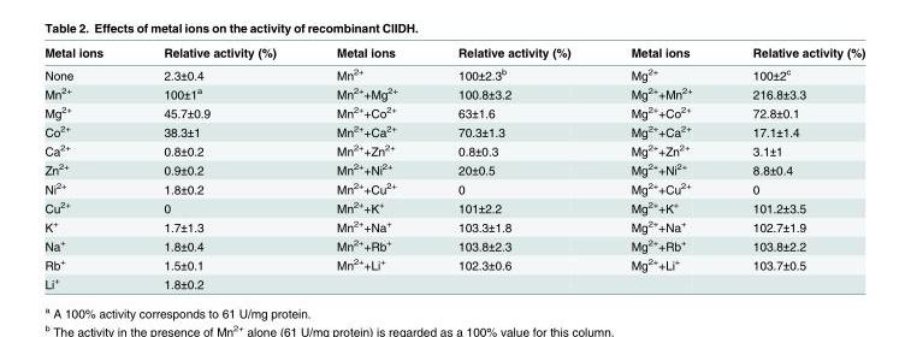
<table><thead><tr><td>Metal ions</td><td>Relative activity (%)</td><td>Metal ions</td><td>Relative activity (%)</td><td>Metal ions</td><td>Relative activity (%)</td></tr></thead><tbody><tr><td>None</td><td>2.3±0.4</td><td>Mn<sup>2+</sup></td><td>100±2.3<sup>b</sup></td><td>Mg<sup>2+</sup></td><td>100±2<sup>c</sup></td></tr><tr><td>Mn<sup>2+</sup></td><td>100±1<sup>a</sup></td><td>Mn<sup>2+</sup>+Mg<sup>2+</sup></td><td>100.8±3.2</td><td>Mg<sup>2+</sup>+Mn<sup>2+</sup></td><td>216.8±3.3</td></tr><tr><td>Mg<sup>2+</sup></td><td>45.7±0.9</td><td>Mn<sup>2+</sup>+Co<sup>2+</sup></td><td>63±1.6</td><td>Mg<sup>2+</sup>+Co<sup>2+</sup></td><td>72.8±0.1</td></tr><tr><td>Co<sup>2+</sup></td><td>38.3±1</td><td>Mn<sup>2+</sup>+Ca<sup>2+</sup></td><td>70.3±1.3</td><td>Mg<sup>2+</sup>+Ca<sup>2+</sup></td><td>17.1±1.4</td></tr><tr><td>Ca<sup>2+</sup></td><td>0.8±0.2</td><td>Mn<sup>2+</sup>+Zn<sup>2+</sup></td><td>0.8±0.3</td><td>Mg<sup>2+</sup>+Zn<sup>2+</sup></td><td>3.1±1</td></tr><tr><td>Zn<sup>2+</sup></td><td>0.9±0.2</td><td>Mn<sup>2+</sup>+Ni<sup>2+</sup></td><td>20±0.5</td><td>Mg<sup>2+</sup>+Ni<sup>2+</sup></td><td>8.8±0.4</td></tr><tr><td>Ni<sup>2+</sup></td><td>1.8±0.2</td><td>Mn<sup>2+</sup>+Cu<sup>2+</sup></td><td>0</td><td>Mg<sup>2+</sup>+Cu<sup>2+</sup></td><td>0</td></tr><tr><td>Cu<sup>2+</sup></td><td>0</td><td>Mn<sup>2+</sup>+K<sup>+</sup></td><td>101±2.2</td><td>Mg<sup>2+</sup>+K<sup>+</sup></td><td>101.2±3.5</td></tr><tr><td>K<sup>+</sup></td><td>1.7±1.3</td><td>Mn<sup>2+</sup>+Na<sup>+</sup></td><td>103.3±1.8</td><td>Mg<sup>2+</sup>+Na<sup>+</sup></td><td>102.7±1.9</td></tr><tr><td>Na<sup>+</sup></td><td>1.8±0.4</td><td>Mn<sup>2+</sup>+Rb<sup>+</sup></td><td>103.8±2.3</td><td>Mg<sup>2+</sup>+Rb<sup>+</sup></td><td>103.8±2.2</td></tr><tr><td>Rb<sup>+</sup></td><td>1.5±0.1</td><td>Mn<sup>2+</sup>+Li<sup>+</sup></td><td>102.3±0.6</td><td>Mg<sup>2+</sup>+Li<sup>+</sup></td><td>103.7±0.5</td></tr><tr><td>Li<sup>+</sup></td><td>1.8±0.2</td><td></td><td></td><td></td><td></td></tr></tbody></table>